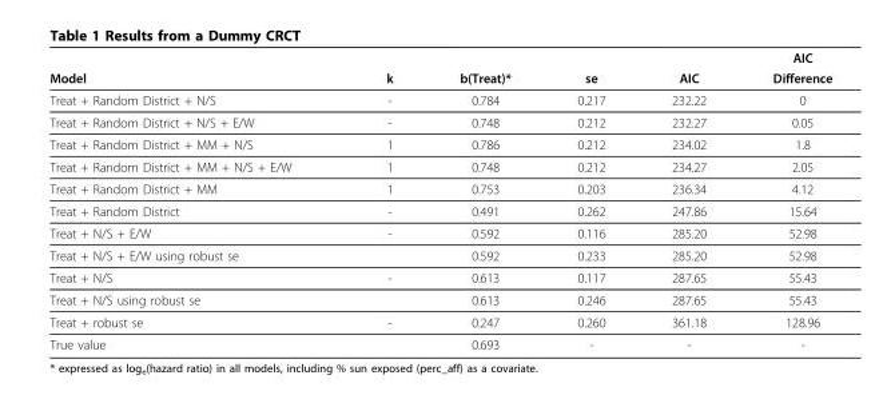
<table><thead><tr><td rowspan="2">Model</td><td rowspan="2">k</td><td rowspan="2">b(Treat)*</td><td rowspan="2">se</td><td rowspan="2">AIC</td><td rowspan="2">AIC Difference</td></tr><tr></tr></thead><tbody><tr><td>Treat + Random District + N/S</td><td>-</td><td>0.784</td><td>0.217</td><td>232.22</td><td>0</td></tr><tr><td>Treat + Random District + N/S + E/W</td><td>-</td><td>0.748</td><td>0.212</td><td>232.27</td><td>0.05</td></tr><tr><td>Treat + Random District + MM + N/S</td><td>1</td><td>0.786</td><td>0.212</td><td>234.02</td><td>1.8</td></tr><tr><td>Treat + Random District + MM + N/S + E/W</td><td>1</td><td>0.748</td><td>0.212</td><td>234.27</td><td>2.05</td></tr><tr><td>Treat + Random District + MM</td><td>1</td><td>0.753</td><td>0.203</td><td>236.34</td><td>4.12</td></tr><tr><td>Treat + Random District</td><td>-</td><td>0.491</td><td>0.262</td><td>247.86</td><td>15.64</td></tr><tr><td>Treat + N/S + E/W</td><td>-</td><td>0.592</td><td>0.116</td><td>285.20</td><td>52.98</td></tr><tr><td>Treat + N/S + E/W using robust se</td><td></td><td>0.592</td><td>0.233</td><td>285.20</td><td>52.98</td></tr><tr><td>Treat + N/S</td><td>-</td><td>0.613</td><td>0.117</td><td>287.65</td><td>55.43</td></tr><tr><td>Treat + N/S using robust se</td><td></td><td>0.613</td><td>0.246</td><td>287.65</td><td>55.43</td></tr><tr><td>Treat + robust se</td><td>-</td><td>0.247</td><td>0.260</td><td>361.18</td><td>128.96</td></tr><tr><td>True value</td><td></td><td>0.693</td><td>-</td><td>-</td><td>-</td></tr></tbody></table>